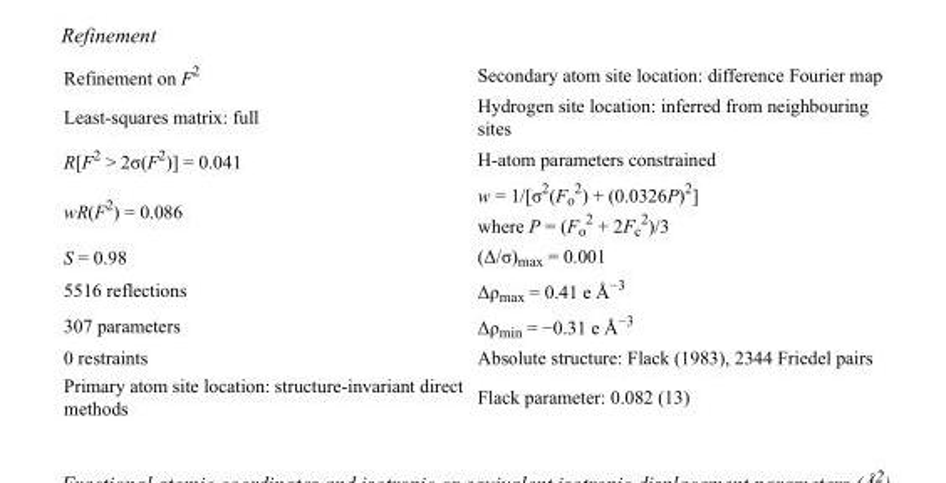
<table><tbody><tr><td>Refinement on F<sup>2</sup></td><td>Secondary atom site location: difference Fourier map</td></tr><tr><td>Least-squares matrix: full</td><td>Hydrogen site location: inferred from neighbouring sites</td></tr><tr><td>R[F<sup>2</sup> &gt; 2σ(F<sup>2</sup>)] = 0.041</td><td>H-atom parameters constrained</td></tr><tr><td>wR(F<sup>2</sup>) = 0.086</td><td>w = 1/[σ<sup>2</sup>(F<sub>o</sub> <sup>2</sup>) + (0.0326P)<sup>2</sup>] where P = (F<sub>o</sub> <sup>2</sup> + 2F<sub>c</sub> <sup>2</sup>)/3</td></tr><tr><td>S = 0.98</td><td>(Δ/σ)<sub>max</sub> = 0.001</td></tr><tr><td>5516 reflections</td><td>Δρ<sub>max</sub> = 0.41 e Å<sup>−3</sup></td></tr><tr><td>307 parameters</td><td>Δρ<sub>min</sub> = −0.31 e Å<sup>−3</sup></td></tr><tr><td>0 restraints</td><td>Absolute structure: Flack (1983), 2344 Friedel pairs</td></tr><tr><td>Primary atom site location: structure-invariant direct methods</td><td>Flack parameter: 0.082 (13)</td></tr></tbody></table>